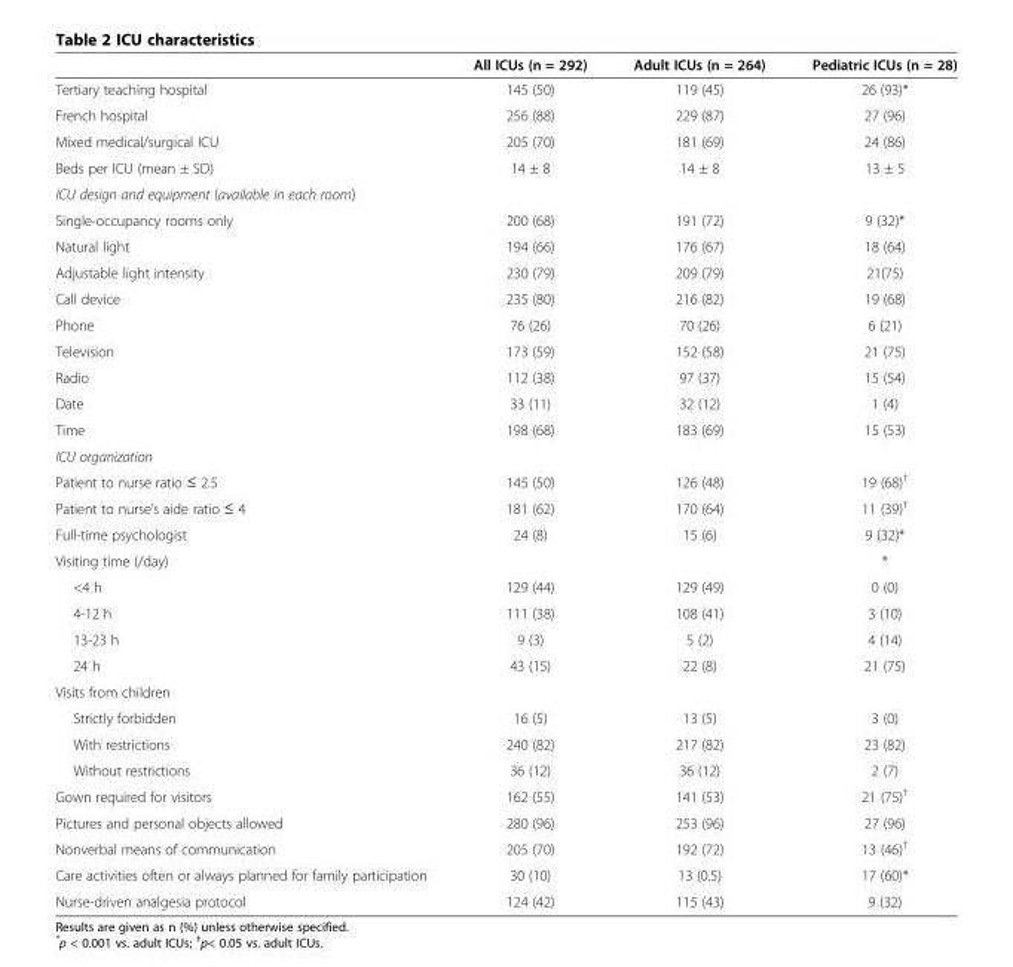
<table><thead><tr><td></td><td>All ICUs (n = 292)</td><td>Adult ICUs (n = 264)</td><td>Pediatric ICUs (n = 28)</td></tr></thead><tbody><tr><td>Tertiary teaching hospital</td><td>145 (50)</td><td>119 (45)</td><td>26 (93)*</td></tr><tr><td>French hospital</td><td>256 (88)</td><td>229 (87)</td><td>27 (96)</td></tr><tr><td>Mixed medical/surgical ICU</td><td>205 (70)</td><td>181 (69)</td><td>24 (86)</td></tr><tr><td>Beds per ICU (mean ± SD)</td><td>14 ± 8</td><td>14 ± 8</td><td>13 ± 5</td></tr><tr><td colspan="4">ICU design and equipment (available in each room)</td></tr><tr><td>Single-occupancy rooms only</td><td>200 (68)</td><td>191 (72)</td><td>9 (32)*</td></tr><tr><td>Natural light</td><td>194 (66)</td><td>176 (67)</td><td>18 (64)</td></tr><tr><td>Adjustable light intensity</td><td>230 (79)</td><td>209 (79)</td><td>21(75)</td></tr><tr><td>Call device</td><td>235 (80)</td><td>216 (82)</td><td>19 (68)</td></tr><tr><td>Phone</td><td>76 (26)</td><td>70 (26)</td><td>6 (21)</td></tr><tr><td>Television</td><td>173 (59)</td><td>152 (58)</td><td>21 (75)</td></tr><tr><td>Radio</td><td>112 (38)</td><td>97 (37)</td><td>15 (54)</td></tr><tr><td>Date</td><td>33 (11)</td><td>32 (12)</td><td>1 (4)</td></tr><tr><td>Time</td><td>198 (68)</td><td>183 (69)</td><td>15 (53)</td></tr><tr><td colspan="4">ICU organization</td></tr><tr><td>Patient to nurse ratio ≤ 2.5</td><td>145 (50)</td><td>126 (48)</td><td>19 (68)<sup>†</sup></td></tr><tr><td>Patient to nurse’s aide ratio ≤ 4</td><td>181 (62)</td><td>170 (64)</td><td>11 (39)<sup>†</sup></td></tr><tr><td>Full-time psychologist</td><td>24 (8)</td><td>15 (6)</td><td>9 (32)*</td></tr><tr><td>Visiting time (/day)</td><td></td><td></td><td>*</td></tr><tr><td>&lt;4 h</td><td>129 (44)</td><td>129 (49)</td><td>0 (0)</td></tr><tr><td>4-12 h</td><td>111 (38)</td><td>108 (41)</td><td>3 (10)</td></tr><tr><td>13-23 h</td><td>9 (3)</td><td>5 (2)</td><td>4 (14)</td></tr><tr><td>24 h</td><td>43 (15)</td><td>22 (8)</td><td>21 (75)</td></tr><tr><td colspan="4">Visits from children</td></tr><tr><td>Strictly forbidden</td><td>16 (5)</td><td>13 (5)</td><td>3 (0)</td></tr><tr><td>With restrictions</td><td>240 (82)</td><td>217 (82)</td><td>23 (82)</td></tr><tr><td>Without restrictions</td><td>36 (12)</td><td>36 (12)</td><td>2 (7)</td></tr><tr><td>Gown required for visitors</td><td>162 (55)</td><td>141 (53)</td><td>21 (75)<sup>†</sup></td></tr><tr><td>Pictures and personal objects allowed</td><td>280 (96)</td><td>253 (96)</td><td>27 (96)</td></tr><tr><td>Nonverbal means of communication</td><td>205 (70)</td><td>192 (72)</td><td>13 (46)<sup>†</sup></td></tr><tr><td>Care activities often or always planned for family participation</td><td>30 (10)</td><td>13 (0.5)</td><td>17 (60)*</td></tr><tr><td>Nurse-driven analgesia protocol</td><td>124 (42)</td><td>115 (43)</td><td>9 (32)</td></tr></tbody></table>